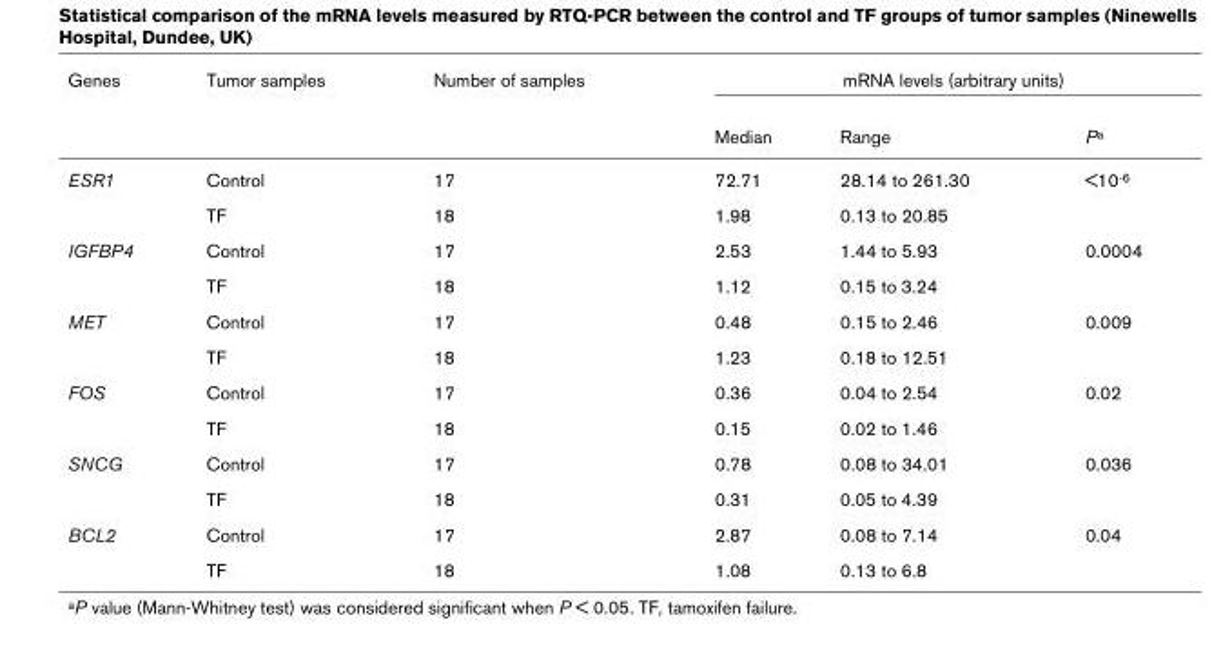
<table><thead><tr><td rowspan="2">Genes</td><td rowspan="2">Tumor samples</td><td rowspan="2">Number of samples</td><td colspan="3">mRNA levels (arbitrary units)</td></tr><tr><td>Median</td><td>Range</td><td>P<sup>a</sup></td></tr></thead><tbody><tr><td rowspan="2">ESR1</td><td>Control</td><td>17</td><td>72.71</td><td>28.14 to 261.30</td><td>&lt;10<sup>-6</sup></td></tr><tr><td>TF</td><td>18</td><td>1.98</td><td>0.13 to 20.85</td><td></td></tr><tr><td rowspan="2">IGFBP4</td><td>Control</td><td>17</td><td>2.53</td><td>1.44 to 5.93</td><td>0.0004</td></tr><tr><td>TF</td><td>18</td><td>1.12</td><td>0.15 to 3.24</td><td></td></tr><tr><td rowspan="2">MET</td><td>Control</td><td>17</td><td>0.48</td><td>0.15 to 2.46</td><td>0.009</td></tr><tr><td>TF</td><td>18</td><td>1.23</td><td>0.18 to 12.51</td><td></td></tr><tr><td rowspan="2">FOS</td><td>Control</td><td>17</td><td>0.36</td><td>0.04 to 2.54</td><td>0.02</td></tr><tr><td>TF</td><td>18</td><td>0.15</td><td>0.02 to 1.46</td><td></td></tr><tr><td rowspan="2">SNCG</td><td>Control</td><td>17</td><td>0.78</td><td>0.08 to 34.01</td><td>0.036</td></tr><tr><td>TF</td><td>18</td><td>0.31</td><td>0.05 to 4.39</td><td></td></tr><tr><td rowspan="2">BCL2</td><td>Control</td><td>17</td><td>2.87</td><td>0.08 to 7.14</td><td>0.04</td></tr><tr><td>TF</td><td>18</td><td>1.08</td><td>0.13 to 6.8</td><td></td></tr></tbody></table>